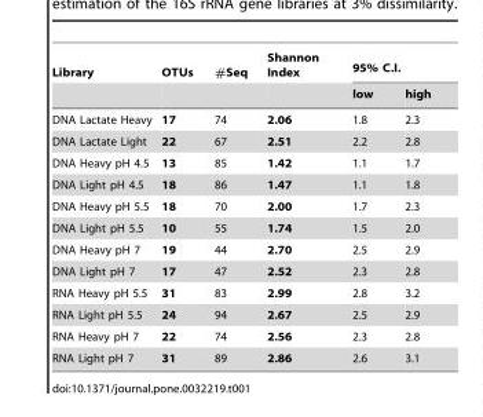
<table><thead><tr><td rowspan="2">Library</td><td rowspan="2">OTUs</td><td rowspan="2">#Seq</td><td rowspan="2">Shannon Index</td><td colspan="2">95% C.I.</td></tr><tr><td>low</td><td>high</td></tr></thead><tbody><tr><td>DNA Lactate Heavy</td><td>17</td><td>74</td><td>2.06</td><td>1.8</td><td>2.3</td></tr><tr><td>DNA Lactate Light</td><td>22</td><td>67</td><td>2.51</td><td>2.2</td><td>2.8</td></tr><tr><td>DNA Heavy pH 4.5</td><td>13</td><td>85</td><td>1.42</td><td>1.1</td><td>1.7</td></tr><tr><td>DNA Light pH 4.5</td><td>18</td><td>86</td><td>1.47</td><td>1.1</td><td>1.8</td></tr><tr><td>DNA Heavy pH 5.5</td><td>18</td><td>70</td><td>2.00</td><td>1.7</td><td>2.3</td></tr><tr><td>DNA Light pH 5.5</td><td>10</td><td>55</td><td>1.74</td><td>1.5</td><td>2.0</td></tr><tr><td>DNA Heavy pH 7</td><td>19</td><td>44</td><td>2.70</td><td>2.5</td><td>2.9</td></tr><tr><td>DNA Light pH 7</td><td>17</td><td>47</td><td>2.52</td><td>2.3</td><td>2.8</td></tr><tr><td>RNA Heavy pH 5.5</td><td>31</td><td>83</td><td>2.99</td><td>2.8</td><td>3.2</td></tr><tr><td>RNA Light pH 5.5</td><td>24</td><td>94</td><td>2.67</td><td>2.5</td><td>2.9</td></tr><tr><td>RNA Heavy pH 7</td><td>22</td><td>74</td><td>2.56</td><td>2.3</td><td>2.8</td></tr><tr><td>RNA Light pH 7</td><td>31</td><td>89</td><td>2.86</td><td>2.6</td><td>3.1</td></tr></tbody></table>